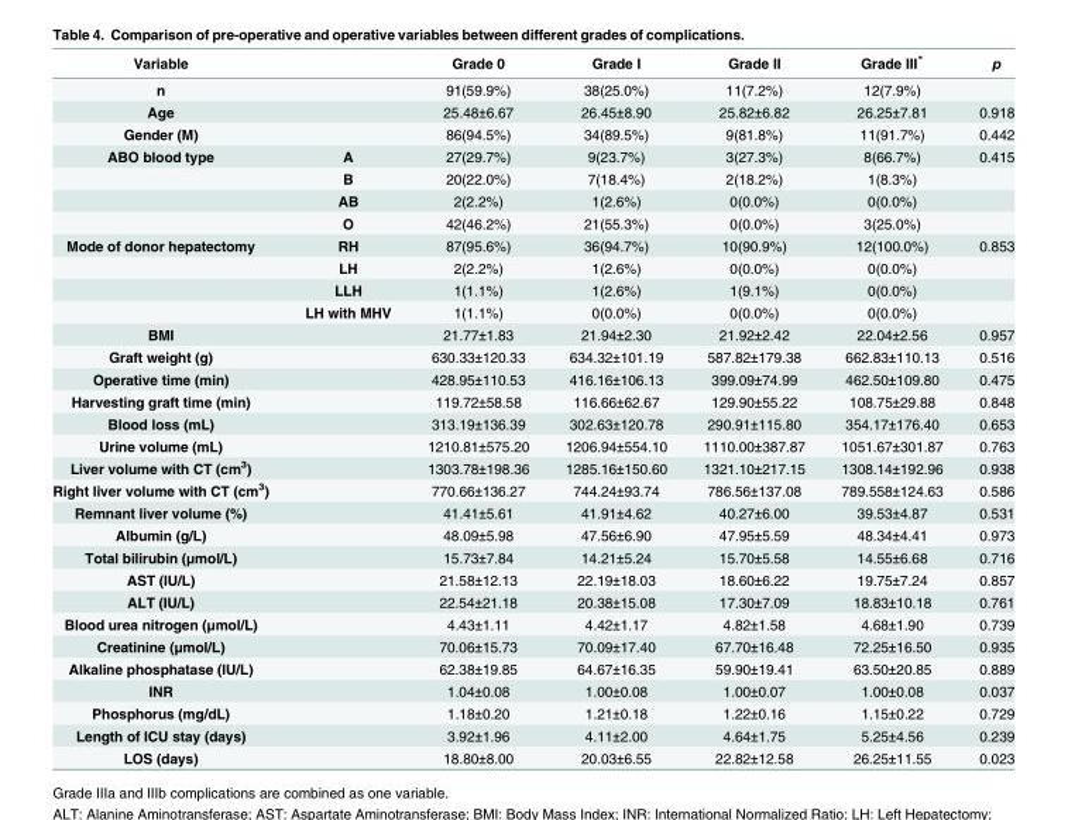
<table><thead><tr><td>Variable</td><td></td><td>Grade 0</td><td>Grade I</td><td>Grade II</td><td>Grade III*</td><td>p</td></tr></thead><tbody><tr><td>n</td><td></td><td>91(59.9%)</td><td>38(25.0%)</td><td>11(7.2%)</td><td>12(7.9%)</td><td></td></tr><tr><td>Age</td><td></td><td>25.48±6.67</td><td>26.45±8.90</td><td>25.82±6.82</td><td>26.25±7.81</td><td>0.918</td></tr><tr><td>Gender (M)</td><td></td><td>86(94.5%)</td><td>34(89.5%)</td><td>9(81.8%)</td><td>11(91.7%)</td><td>0.442</td></tr><tr><td rowspan="4">ABO blood type</td><td>A</td><td>27(29.7%)</td><td>9(23.7%)</td><td>3(27.3%)</td><td>8(66.7%)</td><td>0.415</td></tr><tr><td>B</td><td>20(22.0%)</td><td>7(18.4%)</td><td>2(18.2%)</td><td>1(8.3%)</td><td></td></tr><tr><td>AB</td><td>2(2.2%)</td><td>1(2.6%)</td><td>0(0.0%)</td><td>0(0.0%)</td><td></td></tr><tr><td>O</td><td>42(46.2%)</td><td>21(55.3%)</td><td>0(0.0%)</td><td>3(25.0%)</td><td></td></tr><tr><td rowspan="4">Mode of donor hepatectomy</td><td>RH</td><td>87(95.6%)</td><td>36(94.7%)</td><td>10(90.9%)</td><td>12(100.0%)</td><td>0.853</td></tr><tr><td>LH</td><td>2(2.2%)</td><td>1(2.6%)</td><td>0(0.0%)</td><td>0(0.0%)</td><td></td></tr><tr><td>LLH</td><td>1(1.1%)</td><td>1(2.6%)</td><td>1(9.1%)</td><td>0(0.0%)</td><td></td></tr><tr><td>LH with MHV</td><td>1(1.1%)</td><td>0(0.0%)</td><td>0(0.0%)</td><td>0(0.0%)</td><td></td></tr><tr><td>BMI</td><td></td><td>21.77±1.83</td><td>21.94±2.30</td><td>21.92±2.42</td><td>22.04±2.56</td><td>0.957</td></tr><tr><td>Graft weight (g)</td><td></td><td>630.33±120.33</td><td>634.32±101.19</td><td>587.82±179.38</td><td>662.83±110.13</td><td>0.516</td></tr><tr><td>Operative time (min)</td><td></td><td>428.95±110.53</td><td>416.16±106.13</td><td>399.09±74.99</td><td>462.50±109.80</td><td>0.475</td></tr><tr><td>Harvesting graft time (min)</td><td></td><td>119.72±58.58</td><td>116.66±62.67</td><td>129.90±55.22</td><td>108.75±29.88</td><td>0.848</td></tr><tr><td>Blood loss (mL)</td><td></td><td>313.19±136.39</td><td>302.63±120.78</td><td>290.91±115.80</td><td>354.17±176.40</td><td>0.653</td></tr><tr><td>Urine volume (mL)</td><td></td><td>1210.81±575.20</td><td>1206.94±554.10</td><td>1110.00±387.87</td><td>1051.67±301.87</td><td>0.763</td></tr><tr><td>Liver volume with CT (cm<sup>3</sup>)</td><td></td><td>1303.78±198.36</td><td>1285.16±150.60</td><td>1321.10±217.15</td><td>1308.14±192.96</td><td>0.938</td></tr><tr><td>Right liver volume with CT (cm<sup>3</sup>)</td><td></td><td>770.66±136.27</td><td>744.24±93.74</td><td>786.56±137.08</td><td>789.558±124.63</td><td>0.586</td></tr><tr><td>Remnant liver volume (%)</td><td></td><td>41.41±5.61</td><td>41.91±4.62</td><td>40.27±6.00</td><td>39.53±4.87</td><td>0.531</td></tr><tr><td>Albumin (g/L)</td><td></td><td>48.09±5.98</td><td>47.56±6.90</td><td>47.95±5.59</td><td>48.34±4.41</td><td>0.973</td></tr><tr><td>Total bilirubin (μmol/L)</td><td></td><td>15.73±7.84</td><td>14.21±5.24</td><td>15.70±5.58</td><td>14.55±6.68</td><td>0.716</td></tr><tr><td>AST (IU/L)</td><td></td><td>21.58±12.13</td><td>22.19±18.03</td><td>18.60±6.22</td><td>19.75±7.24</td><td>0.857</td></tr><tr><td>ALT (IU/L)</td><td></td><td>22.54±21.18</td><td>20.38±15.08</td><td>17.30±7.09</td><td>18.83±10.18</td><td>0.761</td></tr><tr><td>Blood urea nitrogen (μmol/L)</td><td></td><td>4.43±1.11</td><td>4.42±1.17</td><td>4.82±1.58</td><td>4.68±1.90</td><td>0.739</td></tr><tr><td>Creatinine (μmol/L)</td><td></td><td>70.06±15.73</td><td>70.09±17.40</td><td>67.70±16.48</td><td>72.25±16.50</td><td>0.935</td></tr><tr><td>Alkaline phosphatase (IU/L)</td><td></td><td>62.38±19.85</td><td>64.67±16.35</td><td>59.90±19.41</td><td>63.50±20.85</td><td>0.889</td></tr><tr><td>INR</td><td></td><td>1.04±0.08</td><td>1.00±0.08</td><td>1.00±0.07</td><td>1.00±0.08</td><td>0.037</td></tr><tr><td>Phosphorus (mg/dL)</td><td></td><td>1.18±0.20</td><td>1.21±0.18</td><td>1.22±0.16</td><td>1.15±0.22</td><td>0.729</td></tr><tr><td>Length of ICU stay (days)</td><td></td><td>3.92±1.96</td><td>4.11±2.00</td><td>4.64±1.75</td><td>5.25±4.56</td><td>0.239</td></tr><tr><td>LOS (days)</td><td></td><td>18.80±8.00</td><td>20.03±6.55</td><td>22.82±12.58</td><td>26.25±11.55</td><td>0.023</td></tr></tbody></table>